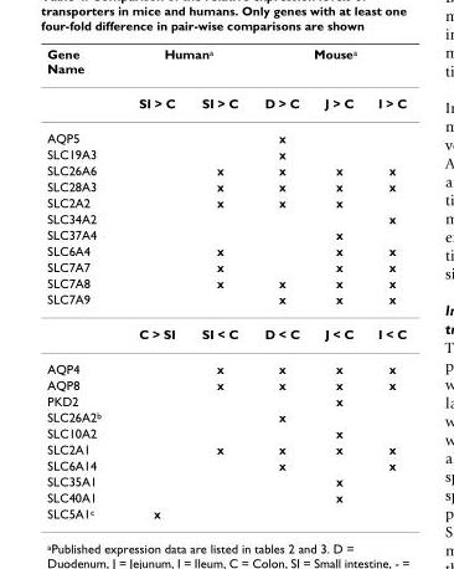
<table><thead><tr><td rowspan="2">Gene Name</td><td colspan="2">Human<sup>a</sup></td><td colspan="3">Mouse<sup>a</sup></td></tr><tr><td>SI &gt; C</td><td>SI &gt; C</td><td>D &gt; C</td><td>J &gt; C</td><td>I &gt; C</td></tr></thead><tbody><tr><td>AQP5</td><td></td><td></td><td>x</td><td></td><td></td></tr><tr><td>SLC19A3</td><td></td><td></td><td>x</td><td></td><td></td></tr><tr><td>SLC26A6</td><td></td><td>x</td><td>x</td><td>x</td><td>x</td></tr><tr><td>SLC28A3</td><td></td><td>x</td><td>x</td><td>x</td><td>x</td></tr><tr><td>SLC2A2</td><td></td><td>x</td><td>x</td><td>x</td><td></td></tr><tr><td>SLC34A2</td><td></td><td></td><td></td><td></td><td>x</td></tr><tr><td>SLC37A4</td><td></td><td></td><td></td><td>x</td><td></td></tr><tr><td>SLC6A4</td><td></td><td>x</td><td></td><td>x</td><td>x</td></tr><tr><td>SLC7A7</td><td></td><td>x</td><td></td><td>x</td><td>x</td></tr><tr><td>SLC7A8</td><td></td><td>x</td><td>x</td><td>x</td><td>x</td></tr><tr><td rowspan="2">SLC7A9</td><td></td><td></td><td>x</td><td>x</td><td>x</td></tr><tr><td>C &gt; SI</td><td>SI &lt; C</td><td>D &lt; C</td><td>J &lt; C</td><td>I &lt; C</td></tr><tr><td>AQP4</td><td></td><td>x</td><td>x</td><td>x</td><td>x</td></tr><tr><td>AQP8</td><td></td><td>x</td><td>x</td><td>x</td><td>x</td></tr><tr><td>PKD2</td><td></td><td></td><td></td><td>x</td><td></td></tr><tr><td>SLC26A2<sup>b</sup></td><td></td><td></td><td>x</td><td></td><td></td></tr><tr><td>SLC10A2</td><td></td><td></td><td></td><td>x</td><td></td></tr><tr><td>SLC2A1</td><td></td><td>x</td><td>x</td><td>x</td><td>x</td></tr><tr><td>SLC6A14</td><td></td><td></td><td>x</td><td></td><td>x</td></tr><tr><td>SLC35A1</td><td></td><td></td><td></td><td>x</td><td></td></tr><tr><td>SLC40A1</td><td></td><td></td><td></td><td>x</td><td></td></tr><tr><td>SLC5A1<sup>c</sup></td><td>x</td><td></td><td></td><td></td><td></td></tr></tbody></table>